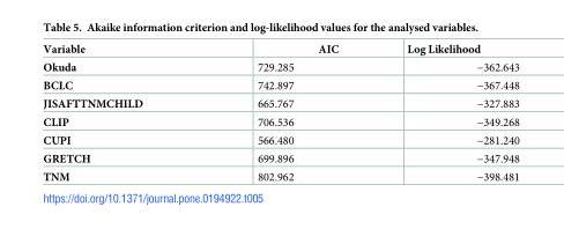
<table><thead><tr><td>Variable</td><td>AIC</td><td>Log Likelihood</td></tr></thead><tbody><tr><td>Okuda</td><td>729.285</td><td>−362.643</td></tr><tr><td>BCLC</td><td>742.897</td><td>−367.448</td></tr><tr><td>JISAFTTNMCHILD</td><td>665.767</td><td>−327.883</td></tr><tr><td>CLIP</td><td>706.536</td><td>−349.268</td></tr><tr><td>CUPI</td><td>566.480</td><td>−281.240</td></tr><tr><td>GRETCH</td><td>699.896</td><td>−347.948</td></tr><tr><td>TNM</td><td>802.962</td><td>−398.481</td></tr></tbody></table>